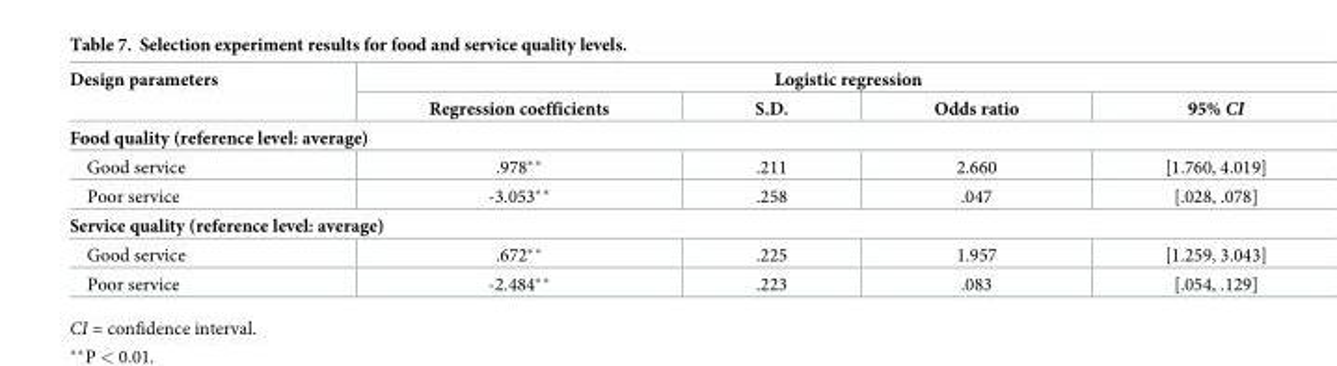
<table><thead><tr><td rowspan="2">Design parameters</td><td colspan="4">Logistic regression</td></tr><tr><td>Regression coefficients</td><td>S.D.</td><td>Odds ratio</td><td>95% CI</td></tr></thead><tbody><tr><td colspan="5">Food quality (reference level: average)</td></tr><tr><td>Good service</td><td>.978**</td><td>.211</td><td>2.660</td><td>[1.760, 4.019]</td></tr><tr><td>Poor service</td><td>-3.053**</td><td>.258</td><td>.047</td><td>[.028, .078]</td></tr><tr><td colspan="5">Service quality (reference level: average)</td></tr><tr><td>Good service</td><td>.672**</td><td>.225</td><td>1.957</td><td>[1.259, 3.043]</td></tr><tr><td>Poor service</td><td>-2.484**</td><td>.223</td><td>.083</td><td>[.054, .129]</td></tr></tbody></table>